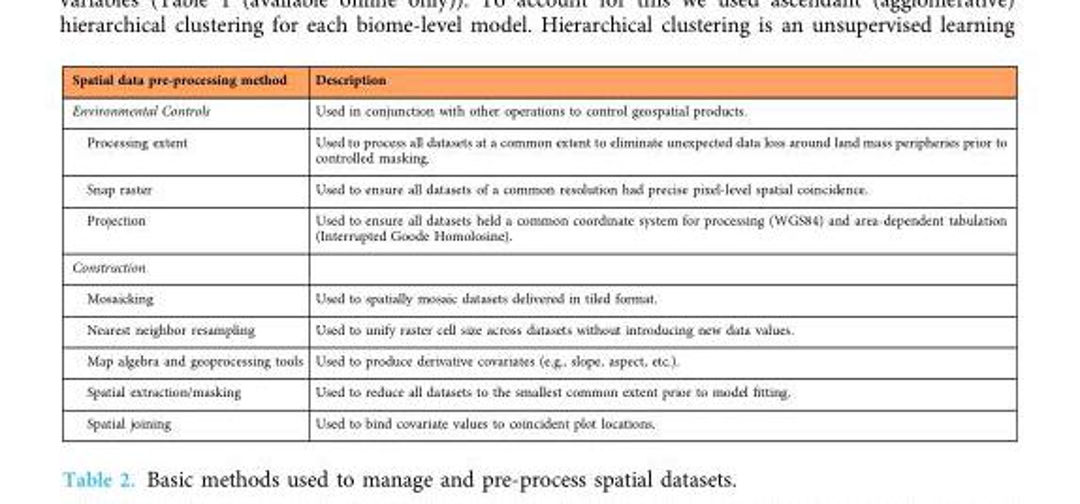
<table><thead><tr><td>Spatial data pre-processing method</td><td>Description</td></tr></thead><tbody><tr><td>Environmental Controls</td><td>Used in conjunction with other operations to control geospatial products.</td></tr><tr><td>Processing extent</td><td>Used to process all datasets at a common extent to eliminate unexpected data loss around land mass peripheries prior to controlled masking.</td></tr><tr><td>Snap raster</td><td>Used to ensure all datasets of a common resolution had precise pixel-level spatial coincidence.</td></tr><tr><td>Projection</td><td>Used to ensure all datasets held a common coordinate system for processing (WGS84) and area-dependent tabulation (Interrupted Goode Homolosine).</td></tr><tr><td colspan="2">Construction</td></tr><tr><td>Mosaicking</td><td>Used to spatially mosaic datasets delivered in tiled format.</td></tr><tr><td>Nearest neighbor resampling</td><td>Used to unify raster cell size across datasets without introducing new data values.</td></tr><tr><td>Map algebra and geoprocessing tools</td><td>Used to produce derivative covariates (e.g., slope, aspect, etc.).</td></tr><tr><td>Spatial extraction/masking</td><td>Used to reduce all datasets to the smallest common extent prior to model fitting.</td></tr><tr><td>Spatial joining</td><td>Used to bind covariate values to coincident plot locations.</td></tr></tbody></table>